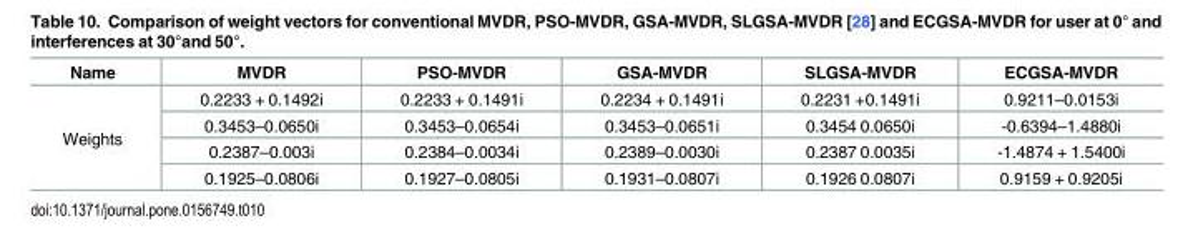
<table><thead><tr><td>Name</td><td>MVDR</td><td>PSO-MVDR</td><td>GSA-MVDR</td><td>SLGSA-MVDR</td><td>ECGSA-MVDR</td></tr></thead><tbody><tr><td rowspan="4">Weights</td><td>0.2233 + 0.1492i</td><td>0.2233 + 0.1491i</td><td>0.2234 + 0.1491i</td><td>0.2231 +0.1491i</td><td>0.9211–0.0153i</td></tr><tr><td>0.3453–0.0650i</td><td>0.3453–0.0654i</td><td>0.3453–0.0651i</td><td>0.3454 0.0650i</td><td>-0.6394–1.4880i</td></tr><tr><td>0.2387–0.003i</td><td>0.2384–0.0034i</td><td>0.2389–0.0030i</td><td>0.2387 0.0035i</td><td>-1.4874 + 1.5400i</td></tr><tr><td>0.1925–0.0806i</td><td>0.1927–0.0805i</td><td>0.1931–0.0807i</td><td>0.1926 0.0807i</td><td>0.9159 + 0.9205i</td></tr></tbody></table>